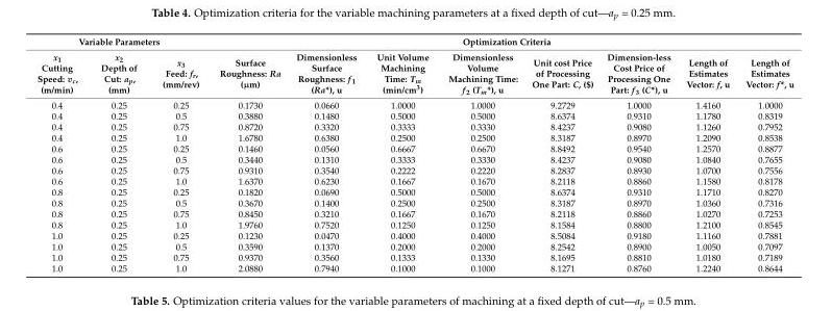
<table><thead><tr><td colspan="3">Variable Parameters</td><td colspan="8">Optimization Criteria</td></tr><tr><td>x<sub>1</sub> Cutting Speed: v<sub>c</sub>, (m/min)</td><td>x<sub>2</sub> Depth of Cut: a<sub>p</sub>, (mm)</td><td>x<sub>3</sub> Feed: f<sub>r</sub>, (mm/rev)</td><td>Surface Roughness: Ra (µm)</td><td>Dimensionless Surface Roughness: f<sub>1</sub> (Ra*), u</td><td>Unit Volume Machining Time: T<sub>m</sub> (min/cm<sup>3</sup>)</td><td>Dimensionless Volume Machining Time: f<sub>2</sub> (T<sub>m</sub>*), u</td><td>Unit cost Price of Processing One Part: C, ($)</td><td>Dimension-less Cost Price of Processing One Part: f<sub>3</sub> (C*), u</td><td>Length of Estimates Vector: f, u</td><td>Length of Estimates Vector: f*, u</td></tr></thead><tbody><tr><td>0.4</td><td>0.25</td><td>0.25</td><td>0.1730</td><td>0.0660</td><td>1.0000</td><td>1.0000</td><td>9.2729</td><td>1.0000</td><td>1.4160</td><td>1.0000</td></tr><tr><td>0.4</td><td>0.25</td><td>0.5</td><td>0.3880</td><td>0.1480</td><td>0.5000</td><td>0.5000</td><td>8.6374</td><td>0.9310</td><td>1.1780</td><td>0.8319</td></tr><tr><td>0.4</td><td>0.25</td><td>0.75</td><td>0.8720</td><td>0.3320</td><td>0.3333</td><td>0.3330</td><td>8.4237</td><td>0.9080</td><td>1.1260</td><td>0.7952</td></tr><tr><td>0.4</td><td>0.25</td><td>1.0</td><td>1.6780</td><td>0.6380</td><td>0.2500</td><td>0.2500</td><td>8.3187</td><td>0.8970</td><td>1.2090</td><td>0.8538</td></tr><tr><td>0.6</td><td>0.25</td><td>0.25</td><td>0.1460</td><td>0.0560</td><td>0.6667</td><td>0.6670</td><td>8.8492</td><td>0.9540</td><td>1.2570</td><td>0.8877</td></tr><tr><td>0.6</td><td>0.25</td><td>0.5</td><td>0.3440</td><td>0.1310</td><td>0.3333</td><td>0.3330</td><td>8.4237</td><td>0.9080</td><td>1.0840</td><td>0.7655</td></tr><tr><td>0.6</td><td>0.25</td><td>0.75</td><td>0.9310</td><td>0.3540</td><td>0.2222</td><td>0.2220</td><td>8.2837</td><td>0.8930</td><td>1.0700</td><td>0.7556</td></tr><tr><td>0.6</td><td>0.25</td><td>1.0</td><td>1.6370</td><td>0.6230</td><td>0.1667</td><td>0.1670</td><td>8.2118</td><td>0.8860</td><td>1.1580</td><td>0.8178</td></tr><tr><td>0.8</td><td>0.25</td><td>0.25</td><td>0.1820</td><td>0.0690</td><td>0.5000</td><td>0.5000</td><td>8.6374</td><td>0.9310</td><td>1.1710</td><td>0.8270</td></tr><tr><td>0.8</td><td>0.25</td><td>0.5</td><td>0.3670</td><td>0.1400</td><td>0.2500</td><td>0.2500</td><td>8.3187</td><td>0.8970</td><td>1.0360</td><td>0.7316</td></tr><tr><td>0.8</td><td>0.25</td><td>0.75</td><td>0.8450</td><td>0.3210</td><td>0.1667</td><td>0.1670</td><td>8.2118</td><td>0.8860</td><td>1.0270</td><td>0.7253</td></tr><tr><td>0.8</td><td>0.25</td><td>1.0</td><td>1.9760</td><td>0.7520</td><td>0.1250</td><td>0.1250</td><td>8.1584</td><td>0.8800</td><td>1.2100</td><td>0.8545</td></tr><tr><td>1.0</td><td>0.25</td><td>0.25</td><td>0.1230</td><td>0.0470</td><td>0.4000</td><td>0.4000</td><td>8.5084</td><td>0.9180</td><td>1.1160</td><td>0.7881</td></tr><tr><td>1.0</td><td>0.25</td><td>0.5</td><td>0.3590</td><td>0.1370</td><td>0.2000</td><td>0.2000</td><td>8.2542</td><td>0.8900</td><td>1.0050</td><td>0.7097</td></tr><tr><td>1.0</td><td>0.25</td><td>0.75</td><td>0.9370</td><td>0.3560</td><td>0.1333</td><td>0.1330</td><td>8.1695</td><td>0.8810</td><td>1.0180</td><td>0.7189</td></tr><tr><td>1.0</td><td>0.25</td><td>1.0</td><td>2.0880</td><td>0.7940</td><td>0.1000</td><td>0.1000</td><td>8.1271</td><td>0.8760</td><td>1.2240</td><td>0.8644</td></tr></tbody></table>